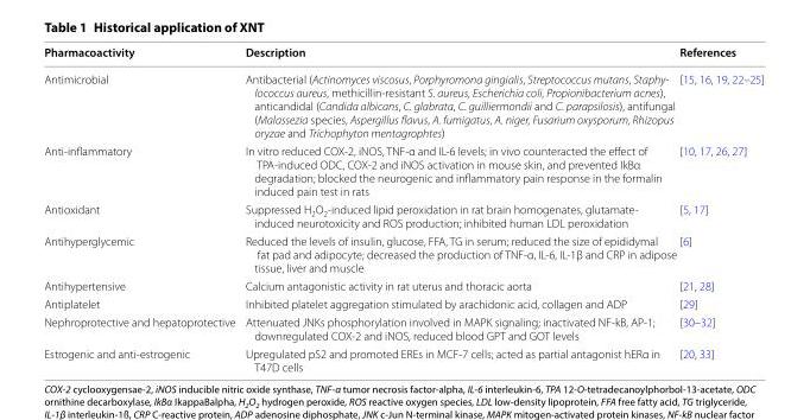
<table><thead><tr><td>Pharmacoactivity</td><td>Description</td><td>References</td></tr></thead><tbody><tr><td>Antimicrobial</td><td>Antibacterial (Actinomyces viscosus, Porphyromona gingialis, Streptococcus mutans, Staphy- lococcus aureus, methicillin-resistant S. aureus, Escherichia coli, Propionibacterium acnes), anticandidal (Candida albicans, C. glabrata, C. guilliermondii and C. parapsilosis), antifungal (Malassezia species, Aspergillus flavus, A. fumigatus, A. niger, Fusarium oxysporum, Rhizopus oryzae and Trichophyton mentagrophtes)</td><td>[15, 16, 19, 22–25]</td></tr><tr><td>Anti-inflammatory</td><td>In vitro reduced COX-2, iNOS, TNF-α and IL-6 levels; in vivo counteracted the effect of TPA-induced ODC, COX-2 and iNOS activation in mouse skin, and prevented IkBα degradation; blocked the neurogenic and inflammatory pain response in the formalin induced pain test in rats</td><td>[10, 17, 26, 27]</td></tr><tr><td>Antioxidant</td><td>Suppressed H<sub>2</sub>O<sub>2</sub>-induced lipid peroxidation in rat brain homogenates, glutamate- induced neurotoxicity and ROS production; inhibited human LDL peroxidation</td><td>[5, 17]</td></tr><tr><td>Antihyperglycemic</td><td>Reduced the levels of insulin, glucose, FFA, TG in serum; reduced the size of epididymal fat pad and adipocyte; decreased the production of TNF-α, IL-6, IL-1β and CRP in adipose tissue, liver and muscle</td><td>[6]</td></tr><tr><td>Antihypertensive</td><td>Calcium antagonistic activity in rat uterus and thoracic aorta</td><td>[21, 28]</td></tr><tr><td>Antiplatelet</td><td>Inhibited platelet aggregation stimulated by arachidonic acid, collagen and ADP</td><td>[29]</td></tr><tr><td>Nephroprotective and hepatoprotective</td><td>Attenuated JNKs phosphorylation involved in MAPK signaling; inactivated NF-kB, AP-1; downregulated COX-2 and iNOS, reduced blood GPT and GOT levels</td><td>[30–32]</td></tr><tr><td>Estrogenic and anti-estrogenic</td><td>Upregulated pS2 and promoted EREs in MCF-7 cells; acted as partial antagonist hERα in T47D cells</td><td>[20, 33]</td></tr></tbody></table>